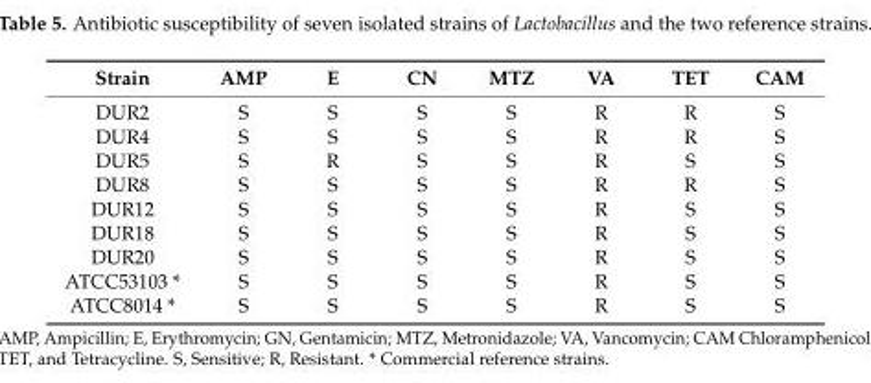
<table><thead><tr><td>Strain</td><td>AMP</td><td>E</td><td>CN</td><td>MTZ</td><td>VA</td><td>TET</td><td>CAM</td></tr></thead><tbody><tr><td>DUR2</td><td>S</td><td>S</td><td>S</td><td>S</td><td>R</td><td>R</td><td>S</td></tr><tr><td>DUR4</td><td>S</td><td>S</td><td>S</td><td>S</td><td>R</td><td>R</td><td>S</td></tr><tr><td>DUR5</td><td>S</td><td>R</td><td>S</td><td>S</td><td>R</td><td>S</td><td>S</td></tr><tr><td>DUR8</td><td>S</td><td>S</td><td>S</td><td>S</td><td>R</td><td>R</td><td>S</td></tr><tr><td>DUR12</td><td>S</td><td>S</td><td>S</td><td>S</td><td>R</td><td>S</td><td>S</td></tr><tr><td>DUR18</td><td>S</td><td>S</td><td>S</td><td>S</td><td>R</td><td>S</td><td>S</td></tr><tr><td>DUR20</td><td>S</td><td>S</td><td>S</td><td>S</td><td>R</td><td>S</td><td>S</td></tr><tr><td>ATCC53103 *</td><td>S</td><td>S</td><td>S</td><td>S</td><td>R</td><td>S</td><td>S</td></tr><tr><td>ATCC8014 *</td><td>S</td><td>S</td><td>S</td><td>S</td><td>R</td><td>S</td><td>S</td></tr></tbody></table>